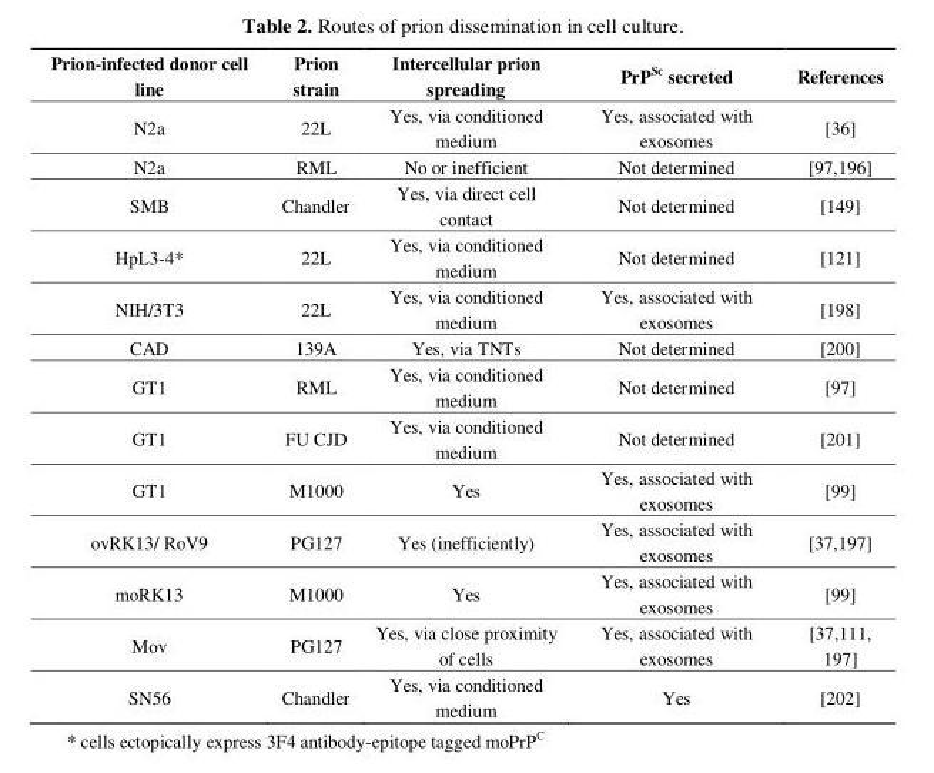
<table><thead><tr><td>Prion-infected donor cell line</td><td>Prion strain</td><td>Intercellular prion spreading</td><td>PrP<sup>Sc</sup> secreted</td><td>References</td></tr></thead><tbody><tr><td>N2a</td><td>22L</td><td>Yes, via conditioned medium</td><td>Yes, associated with exosomes</td><td>[36]</td></tr><tr><td>N2a</td><td>RML</td><td>No or inefficient</td><td>Not determined</td><td>[97,196]</td></tr><tr><td>SMB</td><td>Chandler</td><td>Yes, via direct cell contact</td><td>Not determined</td><td>[149]</td></tr><tr><td>HpL3-4*</td><td>22L</td><td>Yes, via conditioned medium</td><td>Not determined</td><td>[121]</td></tr><tr><td>NIH/3T3</td><td>22L</td><td>Yes, via conditioned medium</td><td>Yes, associated with exosomes</td><td>[198]</td></tr><tr><td>CAD</td><td>139A</td><td>Yes, via TNTs</td><td>Not determined</td><td>[200]</td></tr><tr><td>GT1</td><td>RML</td><td>Yes, via conditioned medium</td><td>Not determined</td><td>[97]</td></tr><tr><td>GT1</td><td>FU CJD</td><td>Yes, via conditioned medium</td><td>Not determined</td><td>[201]</td></tr><tr><td>GT1</td><td>M1000</td><td>Yes</td><td>Yes, associated with exosomes</td><td>[99]</td></tr><tr><td>ovRK13/ RoV9</td><td>PG127</td><td>Yes (inefficiently)</td><td>Yes, associated with exosomes</td><td>[37,197]</td></tr><tr><td>moRK13</td><td>M1000</td><td>Yes</td><td>Yes, associated with exosomes</td><td>[99]</td></tr><tr><td>Mov</td><td>PG127</td><td>Yes, via close proximity of cells</td><td>Yes, associated with exosomes</td><td>[37,111, 197]</td></tr><tr><td>SN56</td><td>Chandler</td><td>Yes, via conditioned medium</td><td>Yes</td><td>[202]</td></tr></tbody></table>